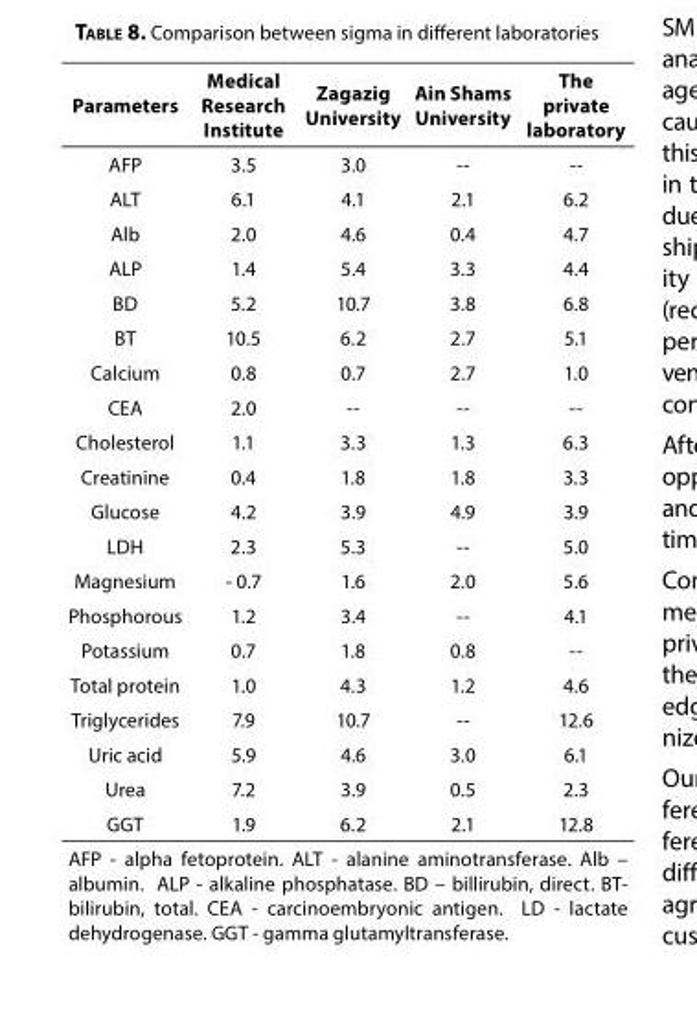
<table><thead><tr><td>Parameters</td><td>Medical Research Institute</td><td>Zagazig University</td><td>Ain Shams University</td><td>The private laboratory</td></tr></thead><tbody><tr><td>AFP</td><td>3.5</td><td>3.0</td><td>--</td><td>--</td></tr><tr><td>ALT</td><td>6.1</td><td>4.1</td><td>2.1</td><td>6.2</td></tr><tr><td>Alb</td><td>2.0</td><td>4.6</td><td>0.4</td><td>4.7</td></tr><tr><td>ALP</td><td>1.4</td><td>5.4</td><td>3.3</td><td>4.4</td></tr><tr><td>BD</td><td>5.2</td><td>10.7</td><td>3.8</td><td>6.8</td></tr><tr><td>BT</td><td>10.5</td><td>6.2</td><td>2.7</td><td>5.1</td></tr><tr><td>Calcium</td><td>0.8</td><td>0.7</td><td>2.7</td><td>1.0</td></tr><tr><td>CEA</td><td>2.0</td><td>--</td><td>--</td><td>--</td></tr><tr><td>Cholesterol</td><td>1.1</td><td>3.3</td><td>1.3</td><td>6.3</td></tr><tr><td>Creatinine</td><td>0.4</td><td>1.8</td><td>1.8</td><td>3.3</td></tr><tr><td>Glucose</td><td>4.2</td><td>3.9</td><td>4.9</td><td>3.9</td></tr><tr><td>LDH</td><td>2.3</td><td>5.3</td><td>--</td><td>5.0</td></tr><tr><td>Magnesium</td><td>- 0.7</td><td>1.6</td><td>2.0</td><td>5.6</td></tr><tr><td>Phosphorous</td><td>1.2</td><td>3.4</td><td>--</td><td>4.1</td></tr><tr><td>Potassium</td><td>0.7</td><td>1.8</td><td>0.8</td><td>--</td></tr><tr><td>Total protein</td><td>1.0</td><td>4.3</td><td>1.2</td><td>4.6</td></tr><tr><td>Triglycerides</td><td>7.9</td><td>10.7</td><td>--</td><td>12.6</td></tr><tr><td>Uric acid</td><td>5.9</td><td>4.6</td><td>3.0</td><td>6.1</td></tr><tr><td>Urea</td><td>7.2</td><td>3.9</td><td>0.5</td><td>2.3</td></tr><tr><td>GGT</td><td>1.9</td><td>6.2</td><td>2.1</td><td>12.8</td></tr><tr><td colspan="5">AFP - alpha fetoprotein. ALT - alanine aminotransferase. Alb – albumin. ALP - alkaline phosphatase. BD – billirubin, direct. BT- bilirubin, total. CEA - carcinoembryonic antigen. LD - lactate dehydrogenase. GGT - gamma glutamyltransferase.</td></tr></tbody></table>